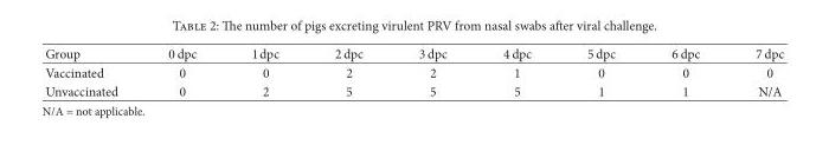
<table><thead><tr><td>Group</td><td>0 dpc</td><td>1 dpc</td><td>2 dpc</td><td>3 dpc</td><td>4 dpc</td><td>5 dpc</td><td>6 dpc</td><td>7 dpc</td></tr></thead><tbody><tr><td>Vaccinated</td><td>0</td><td>0</td><td>2</td><td>2</td><td>1</td><td>0</td><td>0</td><td>0</td></tr><tr><td>Unvaccinated</td><td>0</td><td>2</td><td>5</td><td>5</td><td>5</td><td>1</td><td>1</td><td>N/A</td></tr></tbody></table>